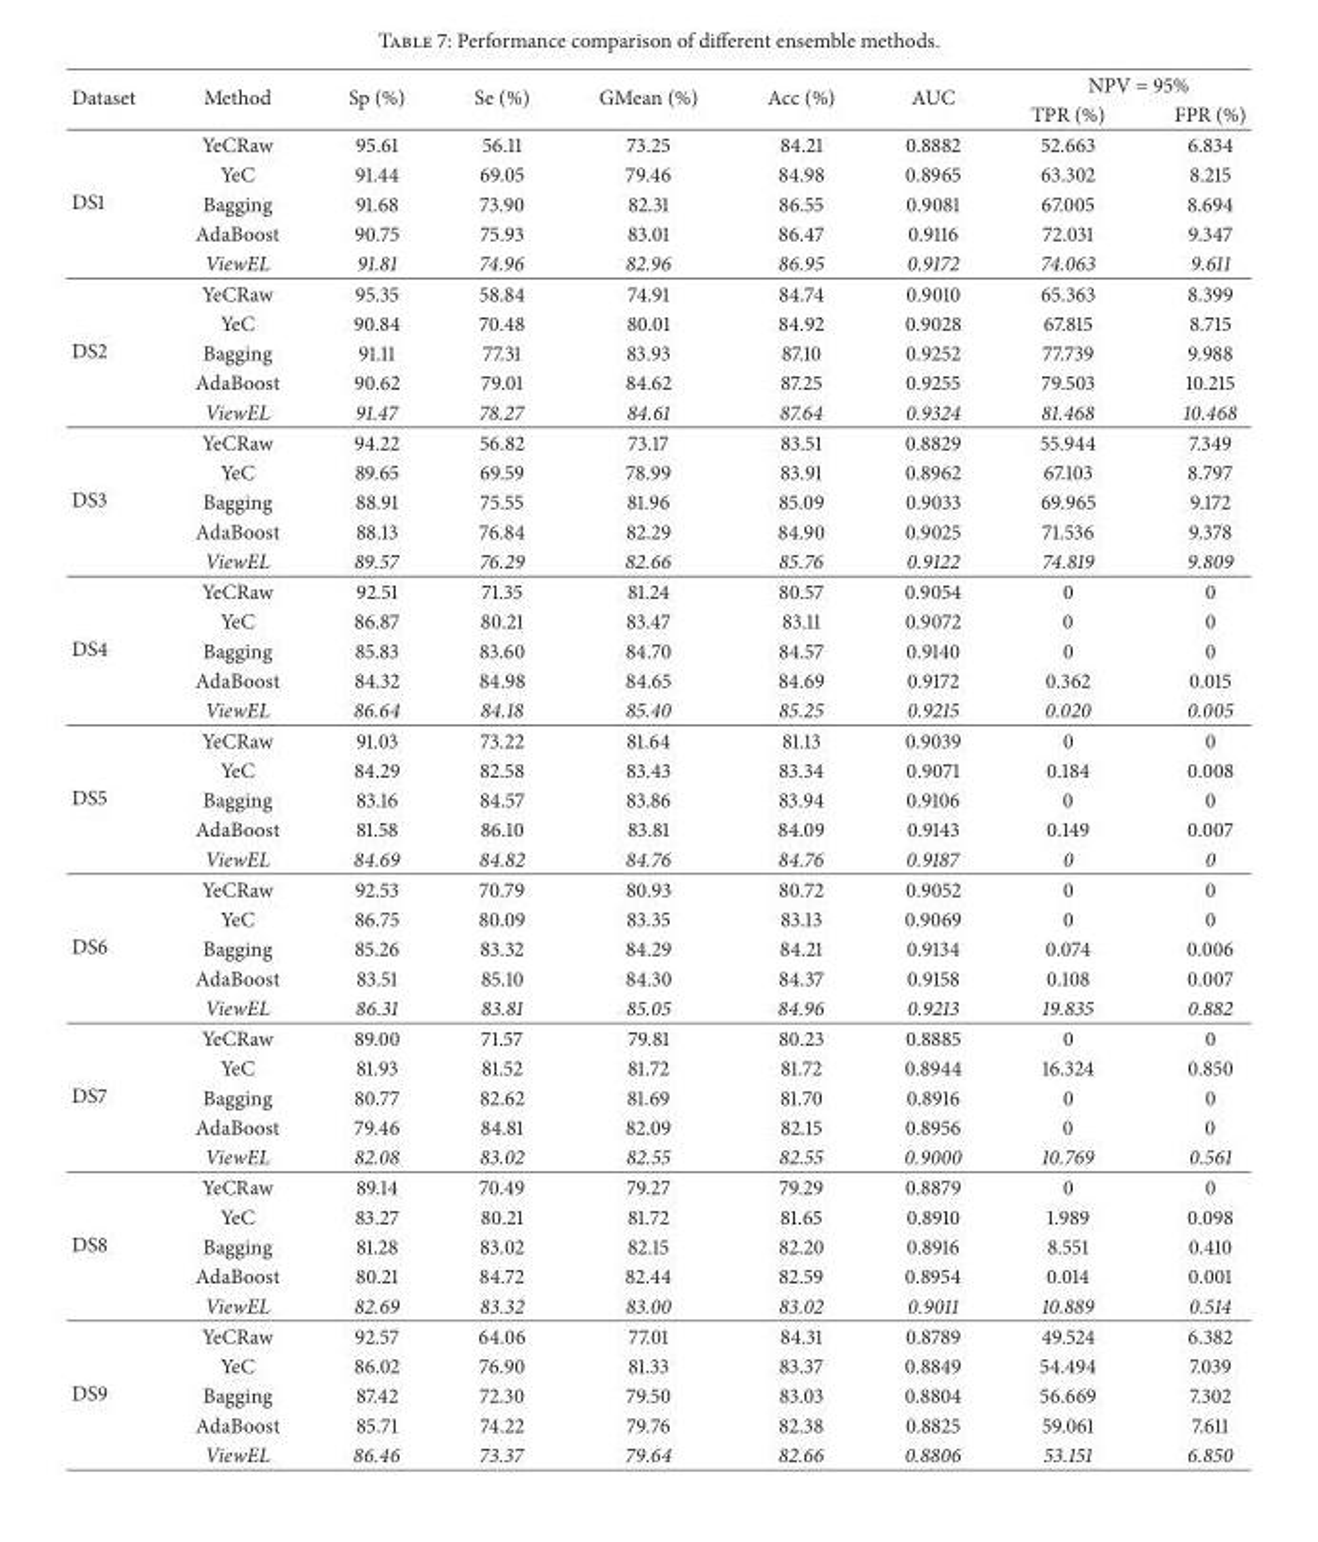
<table><thead><tr><td rowspan="2">Dataset</td><td rowspan="2">Method</td><td rowspan="2">Sp (%)</td><td rowspan="2">Se (%)</td><td rowspan="2">GMean (%)</td><td rowspan="2">Acc (%)</td><td rowspan="2">AUC</td><td colspan="2">NPV = 95%</td></tr><tr><td>TPR (%)</td><td>FPR (%)</td></tr></thead><tbody><tr><td rowspan="5">DS1</td><td>YeCRaw</td><td>95.61</td><td>56.11</td><td>73.25</td><td>84.21</td><td>0.8882</td><td>52.663</td><td>6.834</td></tr><tr><td>YeC</td><td>91.44</td><td>69.05</td><td>79.46</td><td>84.98</td><td>0.8965</td><td>63.302</td><td>8.215</td></tr><tr><td>Bagging</td><td>91.68</td><td>73.90</td><td>82.31</td><td>86.55</td><td>0.9081</td><td>67.005</td><td>8.694</td></tr><tr><td>AdaBoost</td><td>90.75</td><td>75.93</td><td>83.01</td><td>86.47</td><td>0.9116</td><td>72.031</td><td>9.347</td></tr><tr><td>ViewEL</td><td>91.81</td><td>74.96</td><td>82.96</td><td>86.95</td><td>0.9172</td><td>74.063</td><td>9.611</td></tr><tr><td rowspan="5">DS2</td><td>YeCRaw</td><td>95.35</td><td>58.84</td><td>74.91</td><td>84.74</td><td>0.9010</td><td>65.363</td><td>8.399</td></tr><tr><td>YeC</td><td>90.84</td><td>70.48</td><td>80.01</td><td>84.92</td><td>0.9028</td><td>67.815</td><td>8.715</td></tr><tr><td>Bagging</td><td>91.11</td><td>77.31</td><td>83.93</td><td>87.10</td><td>0.9252</td><td>77.739</td><td>9.988</td></tr><tr><td>AdaBoost</td><td>90.62</td><td>79.01</td><td>84.62</td><td>87.25</td><td>0.9255</td><td>79.503</td><td>10.215</td></tr><tr><td>ViewEL</td><td>91.47</td><td>78.27</td><td>84.61</td><td>87.64</td><td>0.9324</td><td>81.468</td><td>10.468</td></tr><tr><td rowspan="5">DS3</td><td>YeCRaw</td><td>94.22</td><td>56.82</td><td>73.17</td><td>83.51</td><td>0.8829</td><td>55.944</td><td>7.349</td></tr><tr><td>YeC</td><td>89.65</td><td>69.59</td><td>78.99</td><td>83.91</td><td>0.8962</td><td>67.103</td><td>8.797</td></tr><tr><td>Bagging</td><td>88.91</td><td>75.55</td><td>81.96</td><td>85.09</td><td>0.9033</td><td>69.965</td><td>9.172</td></tr><tr><td>AdaBoost</td><td>88.13</td><td>76.84</td><td>82.29</td><td>84.90</td><td>0.9025</td><td>71.536</td><td>9.378</td></tr><tr><td>ViewEL</td><td>89.57</td><td>76.29</td><td>82.66</td><td>85.76</td><td>0.9122</td><td>74.819</td><td>9.809</td></tr><tr><td rowspan="5">DS4</td><td>YeCRaw</td><td>92.51</td><td>71.35</td><td>81.24</td><td>80.57</td><td>0.9054</td><td>0</td><td>0</td></tr><tr><td>YeC</td><td>86.87</td><td>80.21</td><td>83.47</td><td>83.11</td><td>0.9072</td><td>0</td><td>0</td></tr><tr><td>Bagging</td><td>85.83</td><td>83.60</td><td>84.70</td><td>84.57</td><td>0.9140</td><td>0</td><td>0</td></tr><tr><td>AdaBoost</td><td>84.32</td><td>84.98</td><td>84.65</td><td>84.69</td><td>0.9172</td><td>0.362</td><td>0.015</td></tr><tr><td>ViewEL</td><td>86.64</td><td>84.18</td><td>85.40</td><td>85.25</td><td>0.9215</td><td>0.020</td><td>0.005</td></tr><tr><td rowspan="5">DS5</td><td>YeCRaw</td><td>91.03</td><td>73.22</td><td>81.64</td><td>81.13</td><td>0.9039</td><td>0</td><td>0</td></tr><tr><td>YeC</td><td>84.29</td><td>82.58</td><td>83.43</td><td>83.34</td><td>0.9071</td><td>0.184</td><td>0.008</td></tr><tr><td>Bagging</td><td>83.16</td><td>84.57</td><td>83.86</td><td>83.94</td><td>0.9106</td><td>0</td><td>0</td></tr><tr><td>AdaBoost</td><td>81.58</td><td>86.10</td><td>83.81</td><td>84.09</td><td>0.9143</td><td>0.149</td><td>0.007</td></tr><tr><td>ViewEL</td><td>84.69</td><td>84.82</td><td>84.76</td><td>84.76</td><td>0.9187</td><td>0</td><td>0</td></tr><tr><td rowspan="5">DS6</td><td>YeCRaw</td><td>92.53</td><td>70.79</td><td>80.93</td><td>80.72</td><td>0.9052</td><td>0</td><td>0</td></tr><tr><td>YeC</td><td>86.75</td><td>80.09</td><td>83.35</td><td>83.13</td><td>0.9069</td><td>0</td><td>0</td></tr><tr><td>Bagging</td><td>85.26</td><td>83.32</td><td>84.29</td><td>84.21</td><td>0.9134</td><td>0.074</td><td>0.006</td></tr><tr><td>AdaBoost</td><td>83.51</td><td>85.10</td><td>84.30</td><td>84.37</td><td>0.9158</td><td>0.108</td><td>0.007</td></tr><tr><td>ViewEL</td><td>86.31</td><td>83.81</td><td>85.05</td><td>84.96</td><td>0.9213</td><td>19.835</td><td>0.882</td></tr><tr><td rowspan="5">DS7</td><td>YeCRaw</td><td>89.00</td><td>71.57</td><td>79.81</td><td>80.23</td><td>0.8885</td><td>0</td><td>0</td></tr><tr><td>YeC</td><td>81.93</td><td>81.52</td><td>81.72</td><td>81.72</td><td>0.8944</td><td>16.324</td><td>0.850</td></tr><tr><td>Bagging</td><td>80.77</td><td>82.62</td><td>81.69</td><td>81.70</td><td>0.8916</td><td>0</td><td>0</td></tr><tr><td>AdaBoost</td><td>79.46</td><td>84.81</td><td>82.09</td><td>82.15</td><td>0.8956</td><td>0</td><td>0</td></tr><tr><td>ViewEL</td><td>82.08</td><td>83.02</td><td>82.55</td><td>82.55</td><td>0.9000</td><td>10.769</td><td>0.561</td></tr><tr><td rowspan="5">DS8</td><td>YeCRaw</td><td>89.14</td><td>70.49</td><td>79.27</td><td>79.29</td><td>0.8879</td><td>0</td><td>0</td></tr><tr><td>YeC</td><td>83.27</td><td>80.21</td><td>81.72</td><td>81.65</td><td>0.8910</td><td>1.989</td><td>0.098</td></tr><tr><td>Bagging</td><td>81.28</td><td>83.02</td><td>82.15</td><td>82.20</td><td>0.8916</td><td>8.551</td><td>0.410</td></tr><tr><td>AdaBoost</td><td>80.21</td><td>84.72</td><td>82.44</td><td>82.59</td><td>0.8954</td><td>0.014</td><td>0.001</td></tr><tr><td>ViewEL</td><td>82.69</td><td>83.32</td><td>83.00</td><td>83.02</td><td>0.9011</td><td>10.889</td><td>0.514</td></tr><tr><td rowspan="5">DS9</td><td>YeCRaw</td><td>92.57</td><td>64.06</td><td>77.01</td><td>84.31</td><td>0.8789</td><td>49.524</td><td>6.382</td></tr><tr><td>YeC</td><td>86.02</td><td>76.90</td><td>81.33</td><td>83.37</td><td>0.8849</td><td>54.494</td><td>7.039</td></tr><tr><td>Bagging</td><td>87.42</td><td>72.30</td><td>79.50</td><td>83.03</td><td>0.8804</td><td>56.669</td><td>7.302</td></tr><tr><td>AdaBoost</td><td>85.71</td><td>74.22</td><td>79.76</td><td>82.38</td><td>0.8825</td><td>59.061</td><td>7.611</td></tr><tr><td>ViewEL</td><td>86.46</td><td>73.37</td><td>79.64</td><td>82.66</td><td>0.8806</td><td>53.151</td><td>6.850</td></tr></tbody></table>